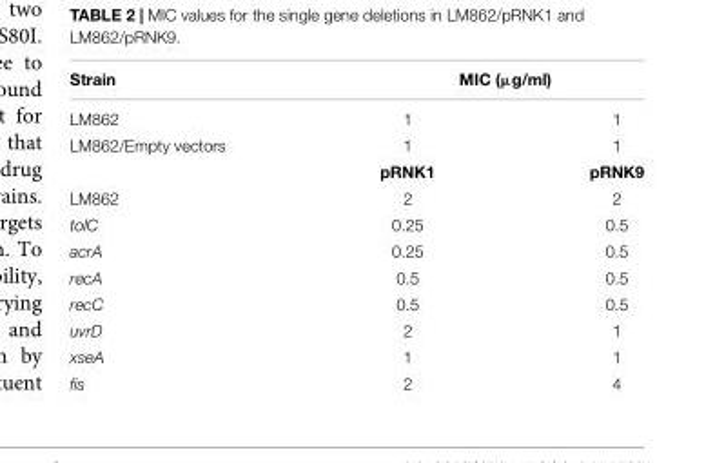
<table><thead><tr><td rowspan="2">Strain LM862</td><td colspan="2">MIC (µg/ml)</td></tr><tr><td>1</td><td>1</td></tr></thead><tbody><tr><td rowspan="2">LM862/Empty vectors</td><td>1</td><td>1</td></tr><tr><td>pRNK1</td><td>pRNK9</td></tr><tr><td>LM862</td><td>2</td><td>2</td></tr><tr><td>tolC</td><td>0.25</td><td>0.5</td></tr><tr><td>acrA</td><td>0.25</td><td>0.5</td></tr><tr><td>recA</td><td>0.5</td><td>0.5</td></tr><tr><td>recC</td><td>0.5</td><td>0.5</td></tr><tr><td>uvrD</td><td>2</td><td>1</td></tr><tr><td>xseA</td><td>1</td><td>1</td></tr><tr><td>fis</td><td>2</td><td>4</td></tr></tbody></table>